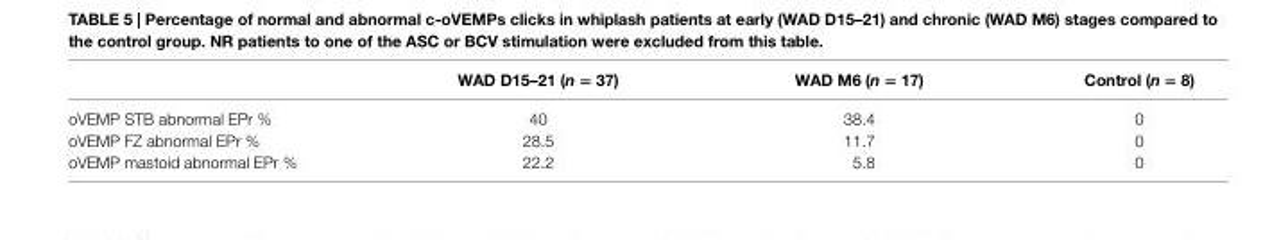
<table><thead><tr><td></td><td>WaD D15–21 (n = 37)</td><td>WaD M6 (n = 17)</td><td>control (n = 8)</td></tr></thead><tbody><tr><td>oVEMP STB abnormal EPr %</td><td>40</td><td>38.4</td><td>0</td></tr><tr><td>oVEMP FZ abnormal EPr %</td><td>28.5</td><td>11.7</td><td>0</td></tr><tr><td>oVEMP mastoid abnormal EPr %</td><td>22.2</td><td>5.8</td><td>0</td></tr></tbody></table>